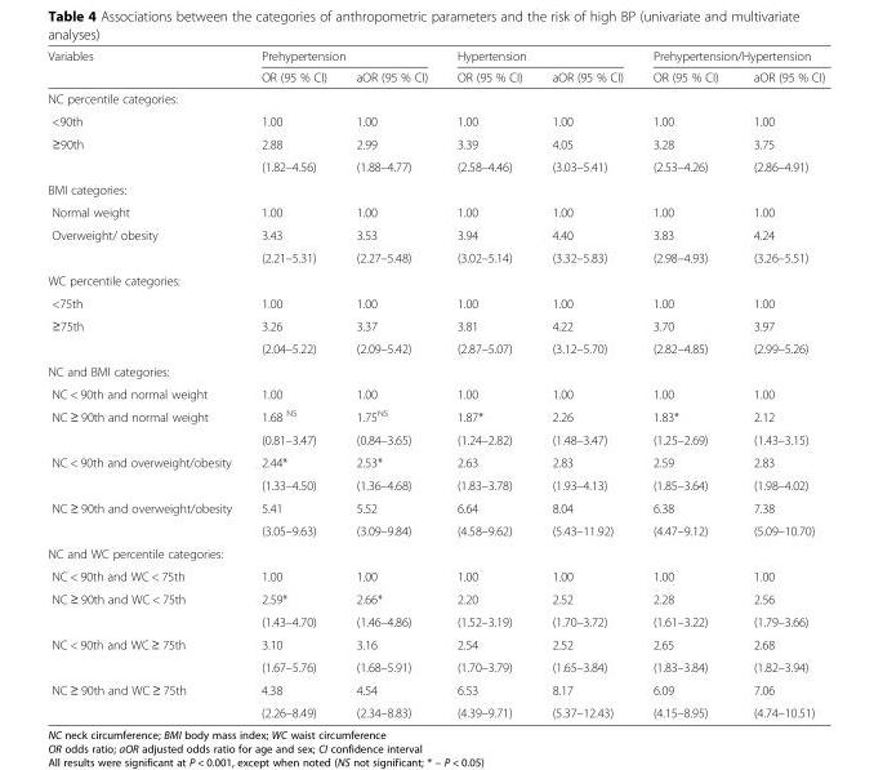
<table><thead><tr><td rowspan="2">Variables</td><td colspan="2">Prehypertension</td><td colspan="2">Hypertension</td><td colspan="2">Prehypertension/Hypertension</td></tr><tr><td>OR (95 % CI)</td><td>aOR (95 % CI)</td><td>OR (95 % CI)</td><td>aOR (95 % CI)</td><td>OR (95 % CI)</td><td>aOR (95 % CI)</td></tr></thead><tbody><tr><td colspan="7">NC percentile categories:</td></tr><tr><td>&lt;90th</td><td>1.00</td><td>1.00</td><td>1.00</td><td>1.00</td><td>1.00</td><td>1.00</td></tr><tr><td rowspan="2">≥90th</td><td>2.88</td><td>2.99</td><td>3.39</td><td>4.05</td><td>3.28</td><td>3.75</td></tr><tr><td>(1.82–4.56)</td><td>(1.88–4.77)</td><td>(2.58–4.46)</td><td>(3.03–5.41)</td><td>(2.53–4.26)</td><td>(2.86–4.91)</td></tr><tr><td colspan="7">BMI categories:</td></tr><tr><td>Normal weight</td><td>1.00</td><td>1.00</td><td>1.00</td><td>1.00</td><td>1.00</td><td>1.00</td></tr><tr><td rowspan="2">Overweight/ obesity</td><td>3.43</td><td>3.53</td><td>3.94</td><td>4.40</td><td>3.83</td><td>4.24</td></tr><tr><td>(2.21–5.31)</td><td>(2.27–5.48)</td><td>(3.02–5.14)</td><td>(3.32–5.83)</td><td>(2.98–4.93)</td><td>(3.26–5.51)</td></tr><tr><td colspan="7">WC percentile categories:</td></tr><tr><td>&lt;75th</td><td>1.00</td><td>1.00</td><td>1.00</td><td>1.00</td><td>1.00</td><td>1.00</td></tr><tr><td rowspan="2">≥75th</td><td>3.26</td><td>3.37</td><td>3.81</td><td>4.22</td><td>3.70</td><td>3.97</td></tr><tr><td>(2.04–5.22)</td><td>(2.09–5.42)</td><td>(2.87–5.07)</td><td>(3.12–5.70)</td><td>(2.82–4.85)</td><td>(2.99–5.26)</td></tr><tr><td colspan="7">NC and BMI categories:</td></tr><tr><td>NC &lt; 90th and normal weight</td><td>1.00</td><td>1.00</td><td>1.00</td><td>1.00</td><td>1.00</td><td>1.00</td></tr><tr><td rowspan="2">NC ≥ 90th and normal weight</td><td>1.68 <sup>NS</sup></td><td>1.75<sup>NS</sup></td><td>1.87*</td><td>2.26</td><td>1.83*</td><td>2.12</td></tr><tr><td>(0.81–3.47)</td><td>(0.84–3.65)</td><td>(1.24–2.82)</td><td>(1.48–3.47)</td><td>(1.25–2.69)</td><td>(1.43–3.15)</td></tr><tr><td rowspan="2">NC &lt; 90th and overweight/obesity</td><td>2.44*</td><td>2.53*</td><td>2.63</td><td>2.83</td><td>2.59</td><td>2.83</td></tr><tr><td>(1.33–4.50)</td><td>(1.36–4.68)</td><td>(1.83–3.78)</td><td>(1.93–4.13)</td><td>(1.85–3.64)</td><td>(1.98–4.02)</td></tr><tr><td rowspan="2">NC ≥ 90th and overweight/obesity</td><td>5.41</td><td>5.52</td><td>6.64</td><td>8.04</td><td>6.38</td><td>7.38</td></tr><tr><td>(3.05–9.63)</td><td>(3.09–9.84)</td><td>(4.58–9.62)</td><td>(5.43–11.92)</td><td>(4.47–9.12)</td><td>(5.09–10.70)</td></tr><tr><td colspan="7">NC and WC percentile categories:</td></tr><tr><td>NC &lt; 90th and WC &lt; 75th</td><td>1.00</td><td>1.00</td><td>1.00</td><td>1.00</td><td>1.00</td><td>1.00</td></tr><tr><td rowspan="2">NC ≥ 90th and WC &lt; 75th</td><td>2.59*</td><td>2.66*</td><td>2.20</td><td>2.52</td><td>2.28</td><td>2.56</td></tr><tr><td>(1.43–4.70)</td><td>(1.46–4.86)</td><td>(1.52–3.19)</td><td>(1.70–3.72)</td><td>(1.61–3.22)</td><td>(1.79–3.66)</td></tr><tr><td rowspan="2">NC &lt; 90th and WC ≥ 75th</td><td>3.10</td><td>3.16</td><td>2.54</td><td>2.52</td><td>2.65</td><td>2.68</td></tr><tr><td>(1.67–5.76)</td><td>(1.68–5.91)</td><td>(1.70–3.79)</td><td>(1.65–3.84)</td><td>(1.83–3.84)</td><td>(1.82–3.94)</td></tr><tr><td rowspan="2">NC ≥ 90th and WC ≥ 75th</td><td>4.38</td><td>4.54</td><td>6.53</td><td>8.17</td><td>6.09</td><td>7.06</td></tr><tr><td>(2.26–8.49)</td><td>(2.34–8.83)</td><td>(4.39–9.71)</td><td>(5.37–12.43)</td><td>(4.15–8.95)</td><td>(4.74–10.51)</td></tr></tbody></table>